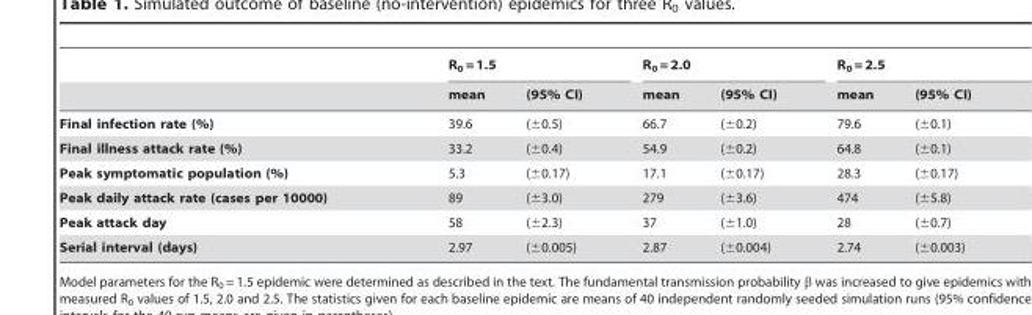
<table><thead><tr><td rowspan="2"></td><td colspan="2">R<sub>0</sub> = 1.5</td><td colspan="2">R<sub>0</sub> = 2.0</td><td colspan="2">R<sub>0</sub> = 2.5</td></tr><tr><td>mean</td><td>(95% CI)</td><td>mean</td><td>(95% CI)</td><td>mean</td><td>(95% CI)</td></tr></thead><tbody><tr><td>Final infection rate (%)</td><td>39.6</td><td>(±0.5)</td><td>66.7</td><td>(±0.2)</td><td>79.6</td><td>(±0.1)</td></tr><tr><td>Final illness attack rate (%)</td><td>33.2</td><td>(±0.4)</td><td>54.9</td><td>(±0.2)</td><td>64.8</td><td>(±0.1)</td></tr><tr><td>Peak symptomatic population (%)</td><td>5.3</td><td>(±0.17)</td><td>17.1</td><td>(±0.17)</td><td>28.3</td><td>(±0.17)</td></tr><tr><td>Peak daily attack rate (cases per 10000)</td><td>89</td><td>(±3.0)</td><td>279</td><td>(±3.6)</td><td>474</td><td>(±5.8)</td></tr><tr><td>Peak attack day</td><td>58</td><td>(±2.3)</td><td>37</td><td>(±1.0)</td><td>28</td><td>(±0.7)</td></tr><tr><td>Serial interval (days)</td><td>2.97</td><td>(±0.005)</td><td>2.87</td><td>(±0.004)</td><td>2.74</td><td>(±0.003)</td></tr></tbody></table>